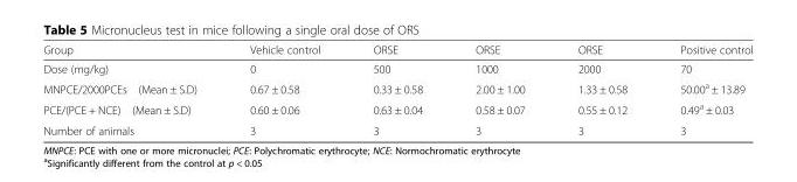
<table><thead><tr><td>Group</td><td>Vehicle control</td><td>ORSE</td><td>ORSE</td><td>ORSE</td><td>Positive control</td></tr></thead><tbody><tr><td>Dose (mg/kg)</td><td>0</td><td>500</td><td>1000</td><td>2000</td><td>70</td></tr><tr><td>MNPCE/2000PCEs (Mean ± S.D)</td><td>0.67 ± 0.58</td><td>0.33 ± 0.58</td><td>2.00 ± 1.00</td><td>1.33 ± 0.58</td><td>50.00<sup>a</sup> ± 13.89</td></tr><tr><td>PCE/(PCE + NCE) (Mean ± S.D)</td><td>0.60 ± 0.06</td><td>0.63 ± 0.04</td><td>0.58 ± 0.07</td><td>0.55 ± 0.12</td><td>0.49<sup>a</sup> ± 0.03</td></tr><tr><td>Number of animals</td><td>3</td><td>3</td><td>3</td><td>3</td><td>3</td></tr></tbody></table>